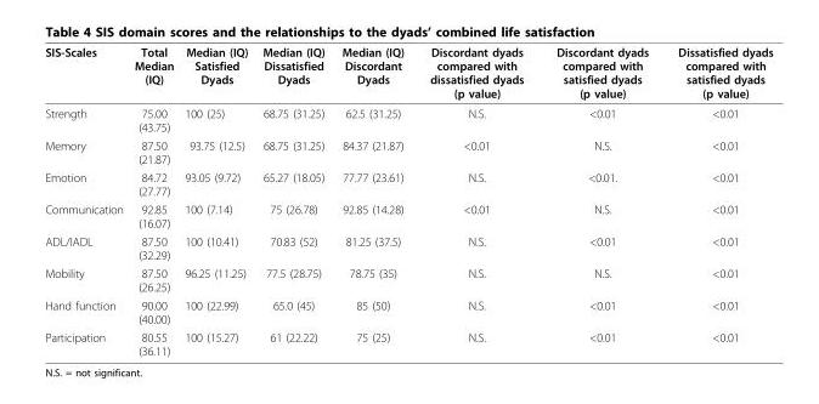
<table><thead><tr><td>SIS-Scales</td><td>Total Median (IQ)</td><td>Median (IQ) Satisfied Dyads</td><td>Median (IQ) Dissatisfied Dyads</td><td>Median (IQ) Discordant Dyads</td><td>Discordant dyads compared with dissatisfied dyads (p value)</td><td>Discordant dyads compared with satisfied dyads (p value)</td><td>Dissatisfied dyads compared with satisfied dyads (p value)</td></tr></thead><tbody><tr><td>Strength</td><td>75.00 (43.75)</td><td>100 (25)</td><td>68.75 (31.25)</td><td>62.5 (31.25)</td><td>N.S.</td><td>&lt;0.01</td><td>&lt;0.01</td></tr><tr><td>Memory</td><td>87.50 (21.87)</td><td>93.75 (12.5)</td><td>68.75 (31.25)</td><td>84.37 (21.87)</td><td>&lt;0.01</td><td>N.S.</td><td>&lt;0.01</td></tr><tr><td>Emotion</td><td>84.72 (27.77)</td><td>93.05 (9.72)</td><td>65.27 (18.05)</td><td>77.77 (23.61)</td><td>N.S.</td><td>&lt;0.01.</td><td>&lt;0.01</td></tr><tr><td>Communication</td><td>92.85 (16.07)</td><td>100 (7.14)</td><td>75 (26.78)</td><td>92.85 (14.28)</td><td>&lt;0.01</td><td>N.S.</td><td>&lt;0.01</td></tr><tr><td>ADL/IADL</td><td>87.50 (32.29)</td><td>100 (10.41)</td><td>70.83 (52)</td><td>81.25 (37.5)</td><td>N.S.</td><td>&lt;0.01</td><td>&lt;0.01</td></tr><tr><td>Mobility</td><td>87.50 (26.25)</td><td>96.25 (11.25)</td><td>77.5 (28.75)</td><td>78.75 (35)</td><td>N.S.</td><td>N.S.</td><td>&lt;0.01</td></tr><tr><td>Hand function</td><td>90.00 (40.00)</td><td>100 (22.99)</td><td>65.0 (45)</td><td>85 (50)</td><td>N.S.</td><td>&lt;0.01</td><td>&lt;0.01</td></tr><tr><td>Participation</td><td>80.55 (36.11)</td><td>100 (15.27)</td><td>61 (22.22)</td><td>75 (25)</td><td>N.S.</td><td>&lt;0.01</td><td>&lt;0.01</td></tr></tbody></table>